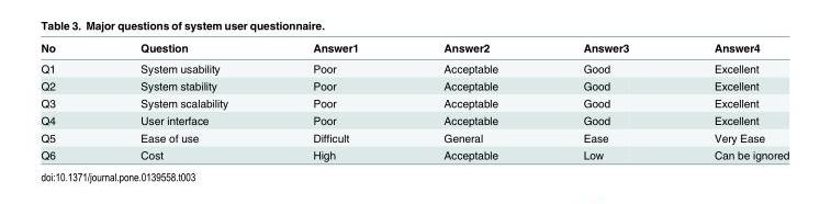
<table><thead><tr><td>No</td><td>Question</td><td>Answer1</td><td>Answer2</td><td>Answer3</td><td>Answer4</td></tr></thead><tbody><tr><td>Q1</td><td>System usability</td><td>Poor</td><td>Acceptable</td><td>Good</td><td>Excellent</td></tr><tr><td>Q2</td><td>System stability</td><td>Poor</td><td>Acceptable</td><td>Good</td><td>Excellent</td></tr><tr><td>Q3</td><td>System scalability</td><td>Poor</td><td>Acceptable</td><td>Good</td><td>Excellent</td></tr><tr><td>Q4</td><td>User interface</td><td>Poor</td><td>Acceptable</td><td>Good</td><td>Excellent</td></tr><tr><td>Q5</td><td>Ease of use</td><td>Difficult</td><td>General</td><td>Ease</td><td>Very Ease</td></tr><tr><td>Q6</td><td>Cost</td><td>High</td><td>Acceptable</td><td>Low</td><td>Can be ignored</td></tr></tbody></table>